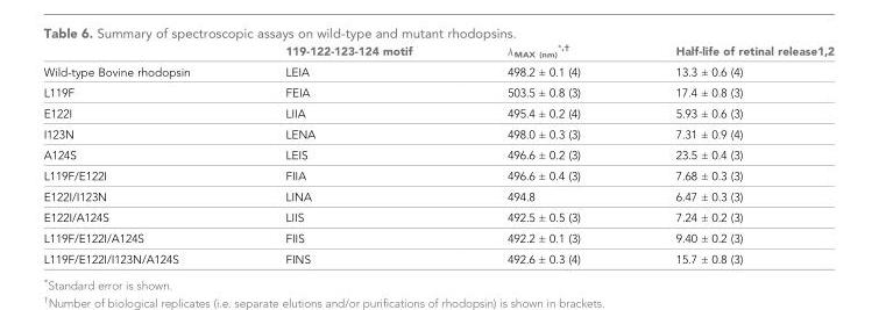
<table><thead><tr><td></td><td>119-122-123-124 motif</td><td>λMAX (nm) *,†</td><td>Half-life of retinal release1,2</td></tr></thead><tbody><tr><td>Wild-type Bovine rhodopsin</td><td>LEIA</td><td>498.2 ± 0.1 (4)</td><td>13.3 ± 0.6 (4)</td></tr><tr><td>L119F</td><td>FEIA</td><td>503.5 ± 0.8 (3)</td><td>17.4 ± 0.8 (3)</td></tr><tr><td>E122I</td><td>LIIA</td><td>495.4 ± 0.2 (4)</td><td>5.93 ± 0.6 (3)</td></tr><tr><td>I123N</td><td>LENA</td><td>498.0 ± 0.3 (3)</td><td>7.31 ± 0.9 (4)</td></tr><tr><td>A124S</td><td>LEIS</td><td>496.6 ± 0.2 (3)</td><td>23.5 ± 0.4 (3)</td></tr><tr><td>L119F/E122I</td><td>FIIA</td><td>496.6 ± 0.4 (3)</td><td>7.68 ± 0.3 (3)</td></tr><tr><td>E122I/I123N</td><td>LINA</td><td>494.8</td><td>6.47 ± 0.3 (3)</td></tr><tr><td>E122I/A124S</td><td>LIIS</td><td>492.5 ± 0.5 (3)</td><td>7.24 ± 0.2 (3)</td></tr><tr><td>L119F/E122I/A124S</td><td>FIIS</td><td>492.2 ± 0.1 (3)</td><td>9.40 ± 0.2 (3)</td></tr><tr><td>L119F/E122I/I123N/A124S</td><td>FINS</td><td>492.6 ± 0.3 (4)</td><td>15.7 ± 0.8 (3)</td></tr></tbody></table>